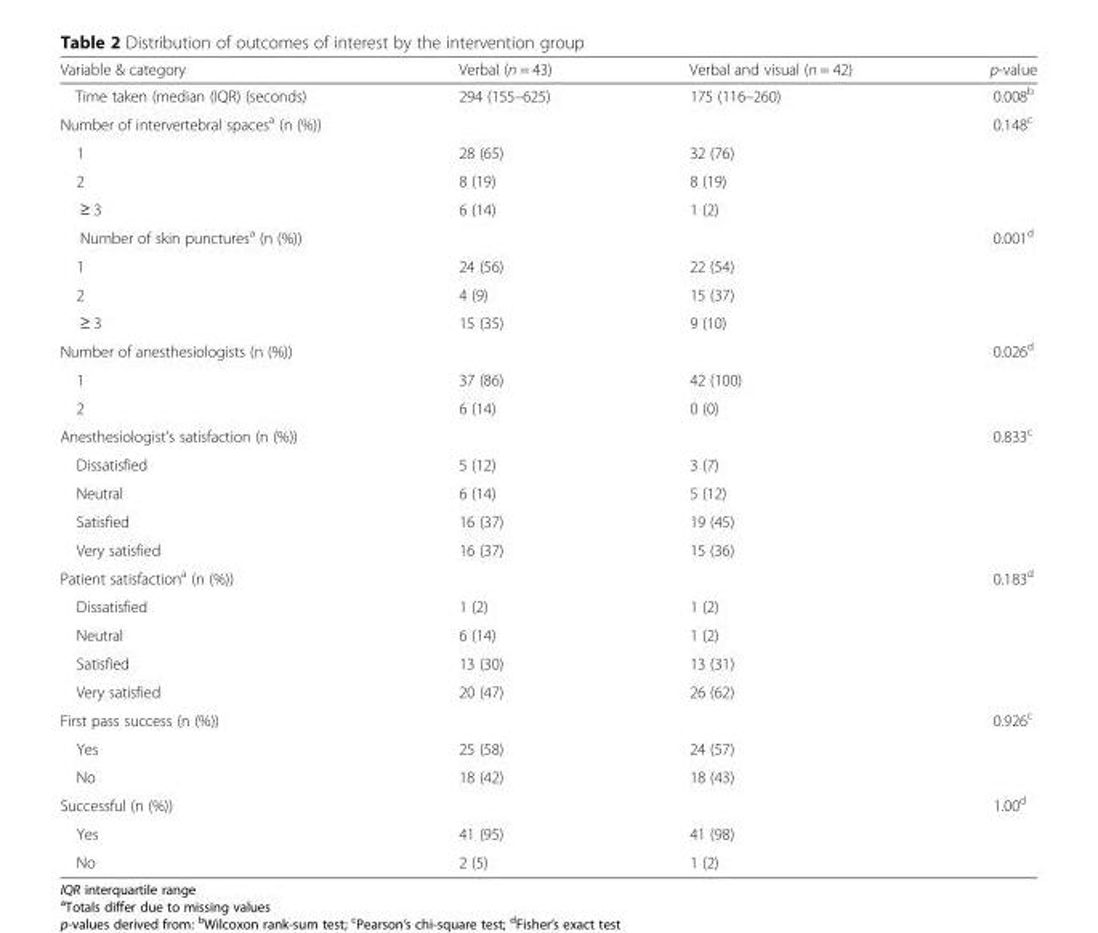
<table><thead><tr><td>Variable &amp; category</td><td>Verbal (n = 43)</td><td>Verbal and visual (n = 42)</td><td>p-value</td></tr></thead><tbody><tr><td>Time taken (median (IQR) (seconds)</td><td>294 (155–625)</td><td>175 (116–260)</td><td>0.008<sup>b</sup></td></tr><tr><td>Number of intervertebral spaces<sup>a</sup> (n (%))</td><td></td><td></td><td>0.148<sup>c</sup></td></tr><tr><td>1</td><td>28 (65)</td><td>32 (76)</td><td></td></tr><tr><td>2</td><td>8 (19)</td><td>8 (19)</td><td></td></tr><tr><td>≥ 3</td><td>6 (14)</td><td>1 (2)</td><td></td></tr><tr><td>Number of skin punctures<sup>a</sup> (n (%))</td><td></td><td></td><td>0.001<sup>d</sup></td></tr><tr><td>1</td><td>24 (56)</td><td>22 (54)</td><td></td></tr><tr><td>2</td><td>4 (9)</td><td>15 (37)</td><td></td></tr><tr><td>≥ 3</td><td>15 (35)</td><td>9 (10)</td><td></td></tr><tr><td>Number of anesthesiologists (n (%))</td><td></td><td></td><td>0.026<sup>d</sup></td></tr><tr><td>1</td><td>37 (86)</td><td>42 (100)</td><td></td></tr><tr><td>2</td><td>6 (14)</td><td>0 (0)</td><td></td></tr><tr><td>Anesthesiologist’s satisfaction (n (%))</td><td></td><td></td><td>0.833<sup>c</sup></td></tr><tr><td>Dissatisfied</td><td>5 (12)</td><td>3 (7)</td><td></td></tr><tr><td>Neutral</td><td>6 (14)</td><td>5 (12)</td><td></td></tr><tr><td>Satisfied</td><td>16 (37)</td><td>19 (45)</td><td></td></tr><tr><td>Very satisfied</td><td>16 (37)</td><td>15 (36)</td><td></td></tr><tr><td>Patient satisfaction<sup>a</sup> (n (%))</td><td></td><td></td><td>0.183<sup>d</sup></td></tr><tr><td>Dissatisfied</td><td>1 (2)</td><td>1 (2)</td><td></td></tr><tr><td>Neutral</td><td>6 (14)</td><td>1 (2)</td><td></td></tr><tr><td>Satisfied</td><td>13 (30)</td><td>13 (31)</td><td></td></tr><tr><td>Very satisfied</td><td>20 (47)</td><td>26 (62)</td><td></td></tr><tr><td>First pass success (n (%))</td><td></td><td></td><td>0.926<sup>c</sup></td></tr><tr><td>Yes</td><td>25 (58)</td><td>24 (57)</td><td></td></tr><tr><td>No</td><td>18 (42)</td><td>18 (43)</td><td></td></tr><tr><td>Successful (n (%))</td><td></td><td></td><td>1.00<sup>d</sup></td></tr><tr><td>Yes</td><td>41 (95)</td><td>41 (98)</td><td></td></tr><tr><td>No</td><td>2 (5)</td><td>1 (2)</td><td></td></tr></tbody></table>